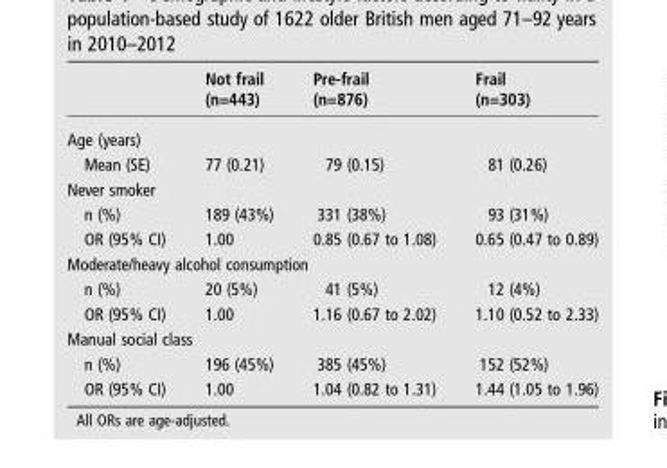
<table><thead><tr><td></td><td>Not frail (n=443)</td><td>Pre-frail (n=876)</td><td>Frail (n=303)</td></tr></thead><tbody><tr><td colspan="4">Age (years)</td></tr><tr><td>Mean (SE)</td><td>77 (0.21)</td><td>79 (0.15)</td><td>81 (0.26)</td></tr><tr><td colspan="4">Never smoker</td></tr><tr><td>n (%)</td><td>189 (43%)</td><td>331 (38%)</td><td>93 (31%)</td></tr><tr><td>OR (95% CI)</td><td>1.00</td><td>0.85 (0.67 to 1.08)</td><td>0.65 (0.47 to 0.89)</td></tr><tr><td colspan="4">Moderate/heavy alcohol consumption</td></tr><tr><td>n (%)</td><td>20 (5%)</td><td>41 (5%)</td><td>12 (4%)</td></tr><tr><td>OR (95% CI)</td><td>1.00</td><td>1.16 (0.67 to 2.02)</td><td>1.10 (0.52 to 2.33)</td></tr><tr><td colspan="4">Manual social class</td></tr><tr><td>n (%)</td><td>196 (45%)</td><td>385 (45%)</td><td>152 (52%)</td></tr><tr><td>OR (95% CI)</td><td>1.00</td><td>1.04 (0.82 to 1.31)</td><td>1.44 (1.05 to 1.96)</td></tr></tbody></table>